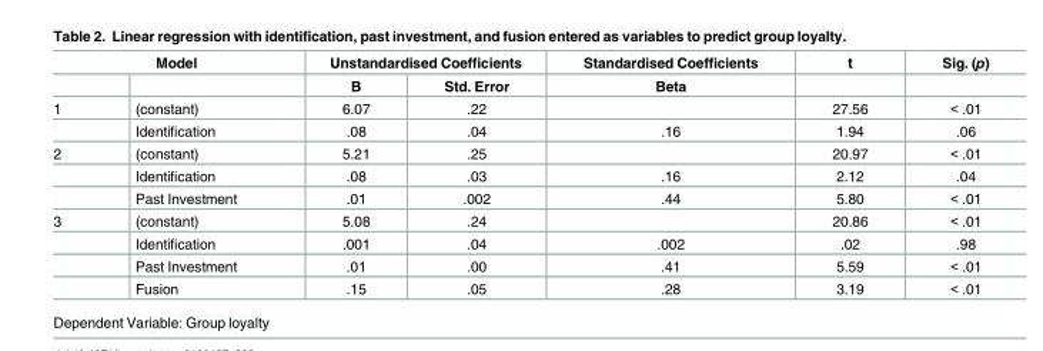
<table><thead><tr><td colspan="2">Model</td><td colspan="2">Unstandardised Coefficients</td><td rowspan="2">Standardised Coefficients Beta</td><td rowspan="2">t</td><td rowspan="2">Sig. (p)</td></tr><tr><td></td><td></td><td>B</td><td>Std. Error</td></tr></thead><tbody><tr><td rowspan="2">1</td><td>(constant)</td><td>6.07</td><td>.22</td><td></td><td>27.56</td><td>&lt; .01</td></tr><tr><td>Identification</td><td>.08</td><td>.04</td><td>.16</td><td>1.94</td><td>.06</td></tr><tr><td rowspan="3">2</td><td>(constant)</td><td>5.21</td><td>.25</td><td></td><td>20.97</td><td>&lt; .01</td></tr><tr><td>Identification</td><td>.08</td><td>.03</td><td>.16</td><td>2.12</td><td>.04</td></tr><tr><td>Past Investment</td><td>.01</td><td>.002</td><td>.44</td><td>5.80</td><td>&lt; .01</td></tr><tr><td rowspan="4">3</td><td>(constant)</td><td>5.08</td><td>.24</td><td></td><td>20.86</td><td>&lt; .01</td></tr><tr><td>Identification</td><td>.001</td><td>.04</td><td>.002</td><td>.02</td><td>.98</td></tr><tr><td>Past Investment</td><td>.01</td><td>.00</td><td>.41</td><td>5.59</td><td>&lt; .01</td></tr><tr><td>Fusion</td><td>.15</td><td>.05</td><td>.28</td><td>3.19</td><td>&lt; .01</td></tr></tbody></table>